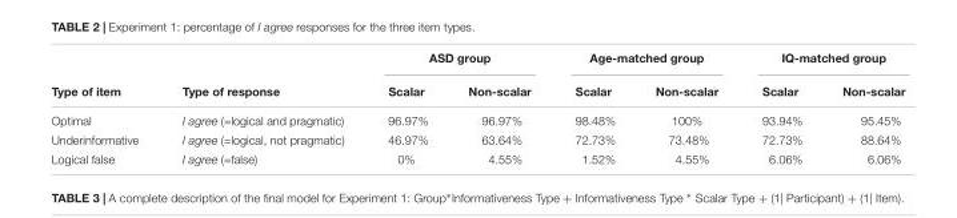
<table><thead><tr><td rowspan="2">Type of item</td><td rowspan="2">Type of response</td><td colspan="2">ASD group</td><td colspan="2">Age-matched group</td><td colspan="2">IQ-matched group</td></tr><tr><td>Scalar</td><td>Non-scalar</td><td>Scalar</td><td>Non-scalar</td><td>Scalar</td><td>Non-scalar</td></tr></thead><tbody><tr><td>Optimal</td><td>I agree (=logical and pragmatic)</td><td>96.97%</td><td>96.97%</td><td>98.48%</td><td>100%</td><td>93.94%</td><td>95.45%</td></tr><tr><td>Underinformative</td><td>I agree (=logical, not pragmatic)</td><td>46.97%</td><td>63.64%</td><td>72.73%</td><td>73.48%</td><td>72.73%</td><td>88.64%</td></tr><tr><td>Logical false</td><td>I agree (=false)</td><td>0%</td><td>4.55%</td><td>1.52%</td><td>4.55%</td><td>6.06%</td><td>6.06%</td></tr></tbody></table>